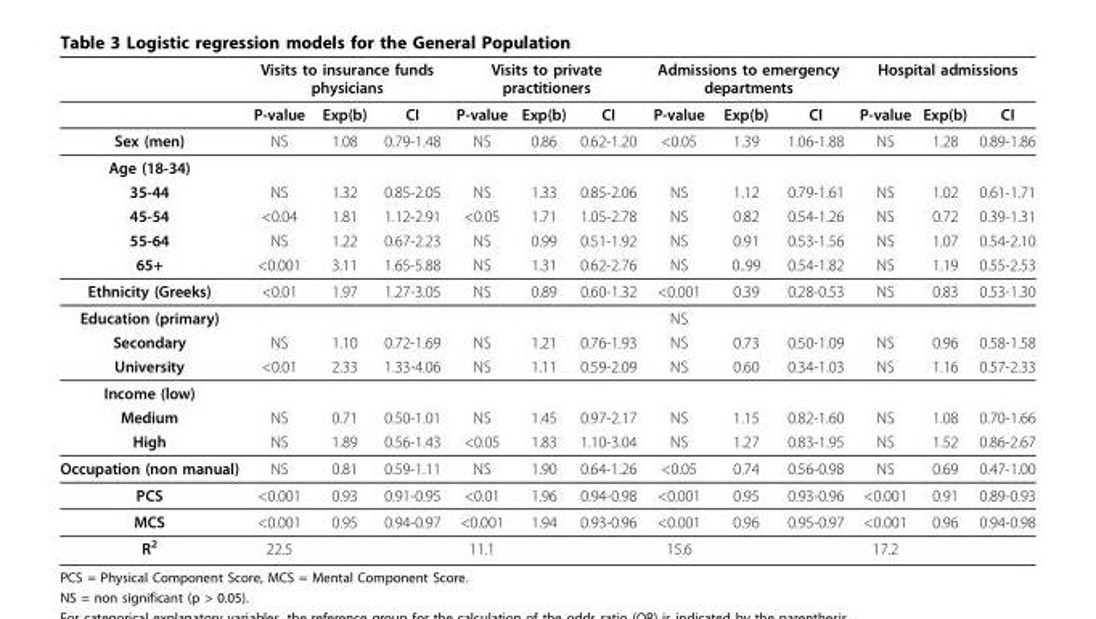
<table><thead><tr><td rowspan="2"></td><td colspan="3">Visits to insurance funds physicians</td><td colspan="3">Visits to private practitioners</td><td colspan="3">Admissions to emergency departments</td><td colspan="3">Hospital admissions</td></tr><tr><td>P-value</td><td>Exp(b)</td><td>CI</td><td>P-value</td><td>Exp(b)</td><td>CI</td><td>P-value</td><td>Exp(b)</td><td>CI</td><td>P-value</td><td>Exp(b)</td><td>CI</td></tr></thead><tbody><tr><td>Sex (men)</td><td>NS</td><td>1.08</td><td>0.79-1.48</td><td>NS</td><td>0.86</td><td>0.62-1.20</td><td>&lt;0.05</td><td>1.39</td><td>1.06-1.88</td><td>NS</td><td>1.28</td><td>0.89-1.86</td></tr><tr><td colspan="13">Age (18-34)</td></tr><tr><td>35-44</td><td>NS</td><td>1.32</td><td>0.85-2.05</td><td>NS</td><td>1.33</td><td>0.85-2.06</td><td>NS</td><td>1.12</td><td>0.79-1.61</td><td>NS</td><td>1.02</td><td>0.61-1.71</td></tr><tr><td>45-54</td><td>&lt;0.04</td><td>1.81</td><td>1.12-2.91</td><td>&lt;0.05</td><td>1.71</td><td>1.05-2.78</td><td>NS</td><td>0.82</td><td>0.54-1.26</td><td>NS</td><td>0.72</td><td>0.39-1.31</td></tr><tr><td>55-64</td><td>NS</td><td>1.22</td><td>0.67-2.23</td><td>NS</td><td>0.99</td><td>0.51-1.92</td><td>NS</td><td>0.91</td><td>0.53-1.56</td><td>NS</td><td>1.07</td><td>0.54-2.10</td></tr><tr><td>65+</td><td>&lt;0.001</td><td>3.11</td><td>1.65-5.88</td><td>NS</td><td>1.31</td><td>0.62-2.76</td><td>NS</td><td>0..99</td><td>0.54-1.82</td><td>NS</td><td>1.19</td><td>0.55-2.53</td></tr><tr><td>Ethnicity (Greeks)</td><td>&lt;0.01</td><td>1.97</td><td>1.27-3.05</td><td>NS</td><td>0.89</td><td>0.60-1.32</td><td>&lt;0.001</td><td>0.39</td><td>0.28-0.53</td><td>NS</td><td>0.83</td><td>0.53-1.30</td></tr><tr><td>Education (primary)</td><td></td><td></td><td></td><td></td><td></td><td></td><td>NS</td><td></td><td></td><td></td><td></td><td></td></tr><tr><td>Secondary</td><td>NS</td><td>1.10</td><td>0.72-1.69</td><td>NS</td><td>1.21</td><td>0.76-1.93</td><td>NS</td><td>0.73</td><td>0.50-1.09</td><td>NS</td><td>0.96</td><td>0.58-1.58</td></tr><tr><td>University</td><td>&lt;0.01</td><td>2.33</td><td>1.33-4.06</td><td>NS</td><td>1.11</td><td>0.59-2.09</td><td>NS</td><td>0.60</td><td>0.34-1.03</td><td>NS</td><td>1.16</td><td>0.57-2.33</td></tr><tr><td colspan="13">Income (low)</td></tr><tr><td>Medium</td><td>NS</td><td>0.71</td><td>0.50-1.01</td><td>NS</td><td>1.45</td><td>0.97-2.17</td><td>NS</td><td>1.15</td><td>0.82-1.60</td><td>NS</td><td>1.08</td><td>0.70-1.66</td></tr><tr><td>High</td><td>NS</td><td>1.89</td><td>0.56-1.43</td><td>&lt;0.05</td><td>1.83</td><td>1.10-3.04</td><td>NS</td><td>1.27</td><td>0.83-1.95</td><td>NS</td><td>1.52</td><td>0.86-2.67</td></tr><tr><td>Occupation (non manual)</td><td>NS</td><td>0.81</td><td>0.59-1.11</td><td>NS</td><td>1.90</td><td>0.64-1.26</td><td>&lt;0.05</td><td>0.74</td><td>0.56-0.98</td><td>NS</td><td>0.69</td><td>0.47-1.00</td></tr><tr><td>PCS</td><td>&lt;0.001</td><td>0.93</td><td>0.91-0.95</td><td>&lt;0.01</td><td>1.96</td><td>0.94-0.98</td><td>&lt;0.001</td><td>0.95</td><td>0.93-0.96</td><td>&lt;0.001</td><td>0.91</td><td>0.89-0.93</td></tr><tr><td>MCS</td><td>&lt;0.001</td><td>0.95</td><td>0.94-0.97</td><td>&lt;0.001</td><td>1.94</td><td>0.93-0.96</td><td>&lt;0.001</td><td>0.96</td><td>0.95-0.97</td><td>&lt;0.001</td><td>0.96</td><td>0.94-0.98</td></tr><tr><td>R<sup>2</sup></td><td>22.5</td><td></td><td></td><td>11.1</td><td></td><td></td><td>15.6</td><td></td><td></td><td>17.2</td><td></td><td></td></tr></tbody></table>